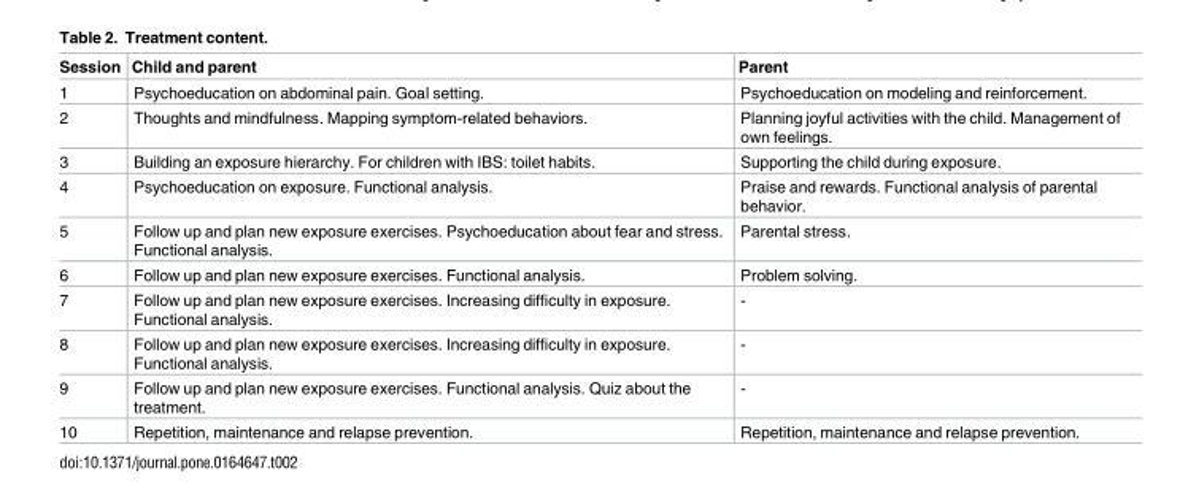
<table><thead><tr><td>Session</td><td>Child and parent</td><td>Parent</td></tr></thead><tbody><tr><td>1</td><td>Psychoeducation on abdominal pain. Goal setting.</td><td>Psychoeducation on modeling and reinforcement.</td></tr><tr><td>2</td><td>Thoughts and mindfulness. Mapping symptom-related behaviors.</td><td>Planning joyful activities with the child. Management of own feelings.</td></tr><tr><td>3</td><td>Building an exposure hierarchy. For children with IBS: toilet habits.</td><td>Supporting the child during exposure.</td></tr><tr><td>4</td><td>Psychoeducation on exposure. Functional analysis.</td><td>Praise and rewards. Functional analysis of parental behavior.</td></tr><tr><td>5</td><td>Follow up and plan new exposure exercises. Psychoeducation about fear and stress. Functional analysis.</td><td>Parental stress.</td></tr><tr><td>6</td><td>Follow up and plan new exposure exercises. Functional analysis.</td><td>Problem solving.</td></tr><tr><td>7</td><td>Follow up and plan new exposure exercises. Increasing difficulty in exposure. Functional analysis.</td><td>-</td></tr><tr><td>8</td><td>Follow up and plan new exposure exercises. Increasing difficulty in exposure. Functional analysis.</td><td>-</td></tr><tr><td>9</td><td>Follow up and plan new exposure exercises. Functional analysis. Quiz about the treatment.</td><td>-</td></tr><tr><td>10</td><td>Repetition, maintenance and relapse prevention.</td><td>Repetition, maintenance and relapse prevention.</td></tr></tbody></table>